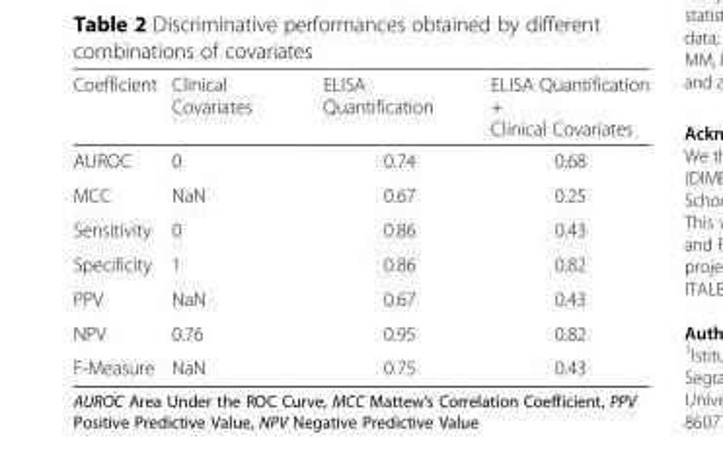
<table><thead><tr><td>Coefficient</td><td>Clinical Covariates</td><td>ELISA Quantification</td><td>ELISA Quantification + Clinical Covariates</td></tr></thead><tbody><tr><td>AUROC</td><td>0</td><td>0.74</td><td>0.68</td></tr><tr><td>MCC</td><td>NaN</td><td>0.67</td><td>0.25</td></tr><tr><td>Sensitivity</td><td>0</td><td>0.86</td><td>0.43</td></tr><tr><td>Specificity</td><td>1</td><td>0.86</td><td>0.82</td></tr><tr><td>PPV</td><td>NaN</td><td>0.67</td><td>0.43</td></tr><tr><td>NPV</td><td>0.76</td><td>0.95</td><td>0.82</td></tr><tr><td>F-Measure</td><td>NaN</td><td>0.75</td><td>0.43</td></tr></tbody></table>